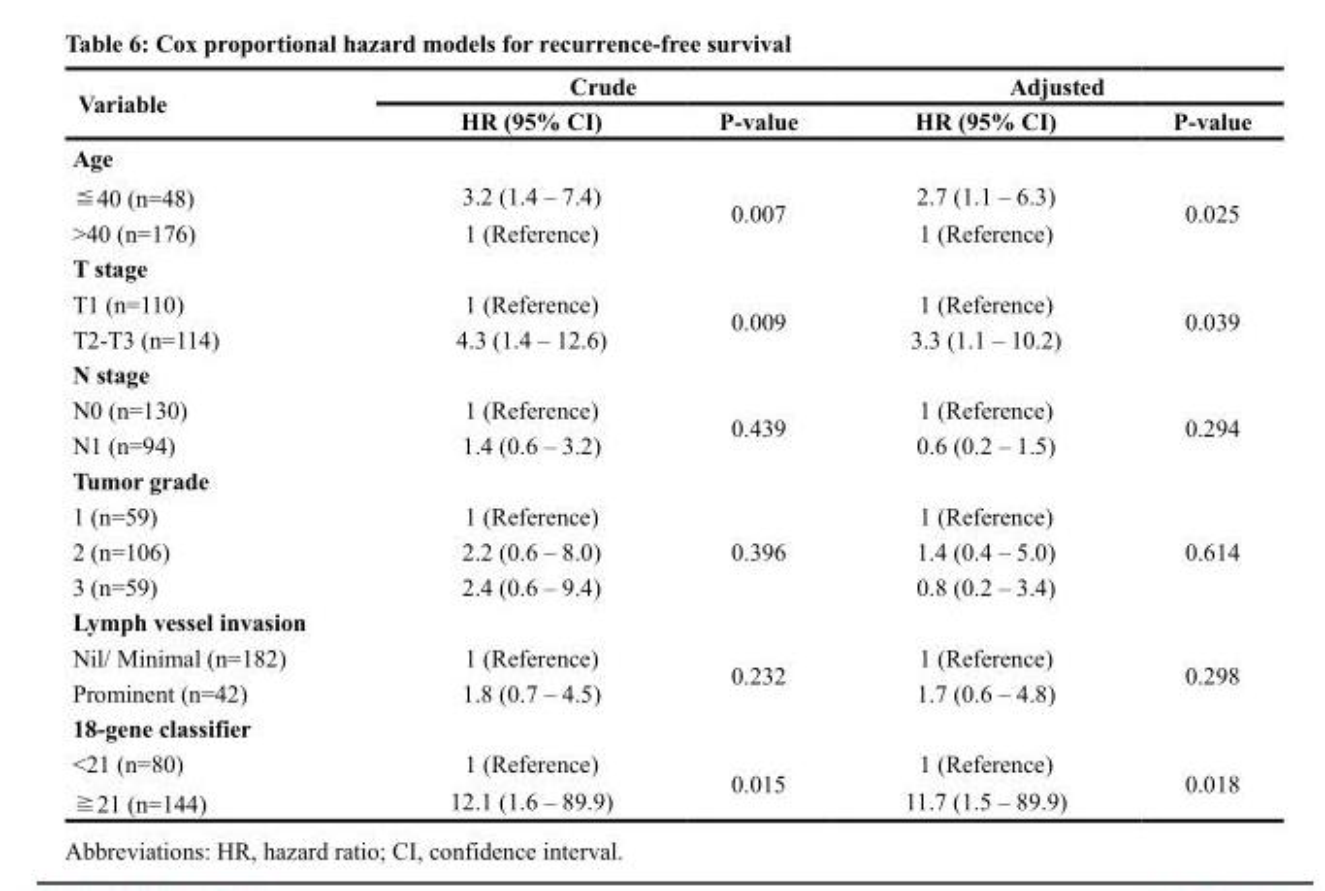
<table><thead><tr><td rowspan="2">Variable</td><td colspan="2">Crude</td><td colspan="2">Adjusted</td></tr><tr><td>HR (95% CI)</td><td>P-value</td><td>HR (95% CI)</td><td>P-value</td></tr></thead><tbody><tr><td colspan="5">Age</td></tr><tr><td>≦40 (n=48)</td><td>3.2 (1.4 – 7.4)</td><td rowspan="2">0.007</td><td>2.7 (1.1 – 6.3)</td><td rowspan="2">0.025</td></tr><tr><td>&gt;40 (n=176)</td><td>1 (Reference)</td><td>1 (Reference)</td></tr><tr><td colspan="5">T stage</td></tr><tr><td>T1 (n=110)</td><td>1 (Reference)</td><td rowspan="2">0.009</td><td>1 (Reference)</td><td rowspan="2">0.039</td></tr><tr><td>T2-T3 (n=114)</td><td>4.3 (1.4 – 12.6)</td><td>3.3 (1.1 – 10.2)</td></tr><tr><td colspan="5">N stage</td></tr><tr><td>N0 (n=130)</td><td>1 (Reference)</td><td rowspan="2">0.439</td><td>1 (Reference)</td><td rowspan="2">0.294</td></tr><tr><td>N1 (n=94)</td><td>1.4 (0.6 – 3.2)</td><td>0.6 (0.2 – 1.5)</td></tr><tr><td colspan="5">Tumor grade</td></tr><tr><td>1 (n=59)</td><td>1 (Reference)</td><td rowspan="3">0.396</td><td>1 (Reference)</td><td rowspan="3">0.614</td></tr><tr><td>2 (n=106)</td><td>2.2 (0.6 – 8.0)</td><td>1.4 (0.4 – 5.0)</td></tr><tr><td>3 (n=59)</td><td>2.4 (0.6 – 9.4)</td><td>0.8 (0.2 – 3.4)</td></tr><tr><td colspan="5">Lymph vessel invasion</td></tr><tr><td>Nil/ Minimal (n=182)</td><td>1 (Reference)</td><td rowspan="2">0.232</td><td>1 (Reference)</td><td rowspan="2">0.298</td></tr><tr><td>Prominent (n=42)</td><td>1.8 (0.7 – 4.5)</td><td>1.7 (0.6 – 4.8)</td></tr><tr><td colspan="5">18-gene classifier</td></tr><tr><td>&lt;21 (n=80)</td><td>1 (Reference)</td><td rowspan="2">0.015</td><td>1 (Reference)</td><td rowspan="2">0.018</td></tr><tr><td>≧21 (n=144)</td><td>12.1 (1.6 – 89.9)</td><td>11.7 (1.5 – 89.9)</td></tr></tbody></table>